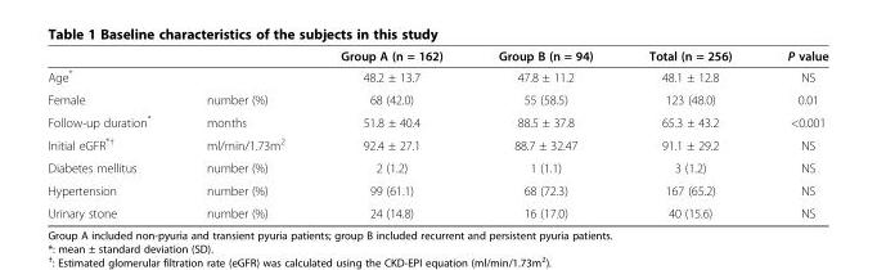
<table><thead><tr><td></td><td></td><td>Group A (n = 162)</td><td>Group B (n = 94)</td><td>Total (n = 256)</td><td>P value</td></tr></thead><tbody><tr><td>Age*</td><td></td><td>48.2 ± 13.7</td><td>47.8 ± 11.2</td><td>48.1 ± 12.8</td><td>NS</td></tr><tr><td>Female</td><td>number (%)</td><td>68 (42.0)</td><td>55 (58.5)</td><td>123 (48.0)</td><td>0.01</td></tr><tr><td>Follow-up duration*</td><td>months</td><td>51.8 ± 40.4</td><td>88.5 ± 37.8</td><td>65.3 ± 43.2</td><td>&lt;0.001</td></tr><tr><td>Initial eGFR<sup>*†</sup></td><td>ml/min/1.73m<sup>2</sup></td><td>92.4 ± 27.1</td><td>88.7 ± 32.47</td><td>91.1 ± 29.2</td><td>NS</td></tr><tr><td>Diabetes mellitus</td><td>number (%)</td><td>2 (1.2)</td><td>1 (1.1)</td><td>3 (1.2)</td><td>NS</td></tr><tr><td>Hypertension</td><td>number (%)</td><td>99 (61.1)</td><td>68 (72.3)</td><td>167 (65.2)</td><td>NS</td></tr><tr><td>Urinary stone</td><td>number (%)</td><td>24 (14.8)</td><td>16 (17.0)</td><td>40 (15.6)</td><td>NS</td></tr></tbody></table>